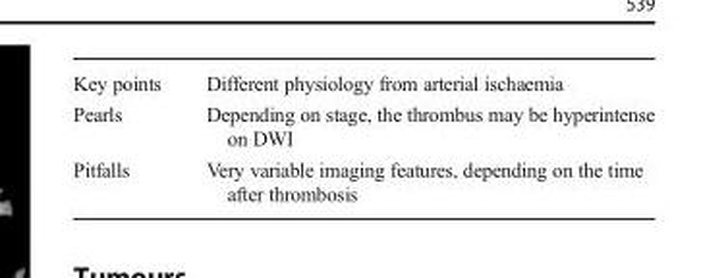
<table><tbody><tr><td>Key points</td><td>Different physiology from arterial ischaemia</td></tr><tr><td>Pearls</td><td>Depending on stage, the thrombus may be hyperintense on DWI</td></tr><tr><td>Pitfalls</td><td>Very variable imaging features, depending on the time after thrombosis</td></tr></tbody></table>